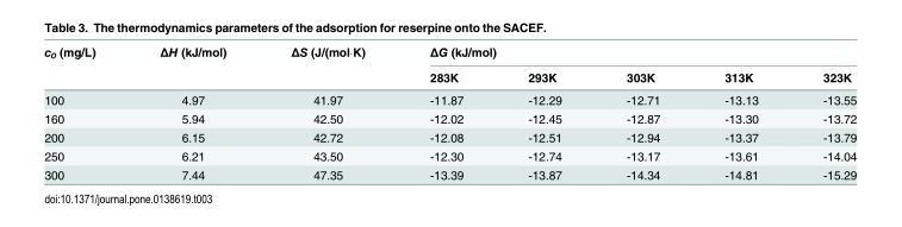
<table><thead><tr><td rowspan="2">c<sub>0</sub> (mg/L)</td><td rowspan="2">ΔH (kJ/mol)</td><td rowspan="2">ΔS (J/(mol·K)</td><td colspan="5">ΔG (kJ/mol)</td></tr><tr><td>283K</td><td>293K</td><td>303K</td><td>313K</td><td>323K</td></tr></thead><tbody><tr><td>100</td><td>4.97</td><td>41.97</td><td>-11.87</td><td>-12.29</td><td>-12.71</td><td>-13.13</td><td>-13.55</td></tr><tr><td>160</td><td>5.94</td><td>42.50</td><td>-12.02</td><td>-12.45</td><td>-12.87</td><td>-13.30</td><td>-13.72</td></tr><tr><td>200</td><td>6.15</td><td>42.72</td><td>-12.08</td><td>-12.51</td><td>-12.94</td><td>-13.37</td><td>-13.79</td></tr><tr><td>250</td><td>6.21</td><td>43.50</td><td>-12.30</td><td>-12.74</td><td>-13.17</td><td>-13.61</td><td>-14.04</td></tr><tr><td>300</td><td>7.44</td><td>47.35</td><td>-13.39</td><td>-13.87</td><td>-14.34</td><td>-14.81</td><td>-15.29</td></tr></tbody></table>